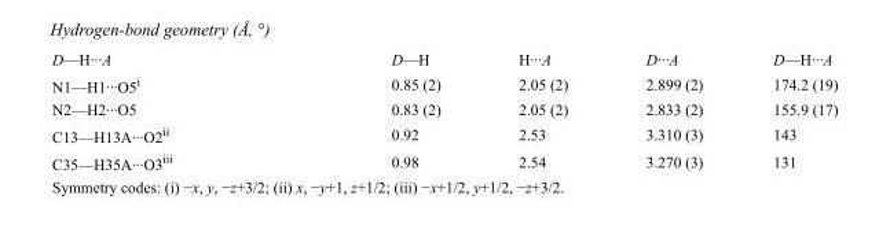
<table><tbody><tr><td>D—H···A</td><td>D—H</td><td>H···A</td><td>D···A</td><td>D—H···A</td></tr><tr><td>N1—H1···O5<sup>i</sup></td><td>0.85 (2)</td><td>2.05 (2)</td><td>2.899 (2)</td><td>174.2 (19)</td></tr><tr><td>N2—H2···O5</td><td>0.83 (2)</td><td>2.05 (2)</td><td>2.833 (2)</td><td>155.9 (17)</td></tr><tr><td>C13—H13A···O2<sup>ii</sup></td><td>0.92</td><td>2.53</td><td>3.310 (3)</td><td>143</td></tr><tr><td>C35—H35A···O3<sup>iii</sup></td><td>0.98</td><td>2.54</td><td>3.270 (3)</td><td>131</td></tr></tbody></table>